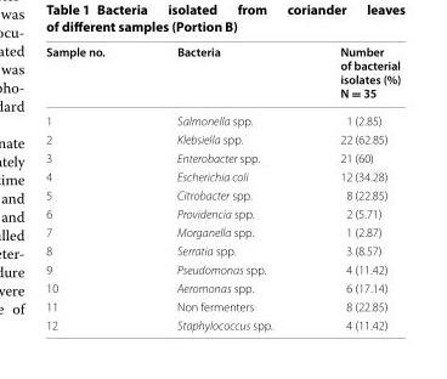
<table><thead><tr><td>Sample no.</td><td>Bacteria</td><td>Number of bacterial isolates (%) N = 35</td></tr></thead><tbody><tr><td>1</td><td>Salmonella spp.</td><td>1 (2.85)</td></tr><tr><td>2</td><td>Klebsiella spp.</td><td>22 (62.85)</td></tr><tr><td>3</td><td>Enterobacter spp.</td><td>21 (60)</td></tr><tr><td>4</td><td>Escherichia coli</td><td>12 (34.28)</td></tr><tr><td>5</td><td>Citrobacter spp.</td><td>8 (22.85)</td></tr><tr><td>6</td><td>Providencia spp.</td><td>2 (5.71)</td></tr><tr><td>7</td><td>Morganella spp.</td><td>1 (2.87)</td></tr><tr><td>8</td><td>Serratia spp.</td><td>3 (8.57)</td></tr><tr><td>9</td><td>Pseudomonas spp.</td><td>4 (11.42)</td></tr><tr><td>10</td><td>Aeromonas spp.</td><td>6 (17.14)</td></tr><tr><td>11</td><td>Non fermenters</td><td>8 (22.85)</td></tr><tr><td>12</td><td>Staphylococcus spp.</td><td>4 (11.42)</td></tr></tbody></table>